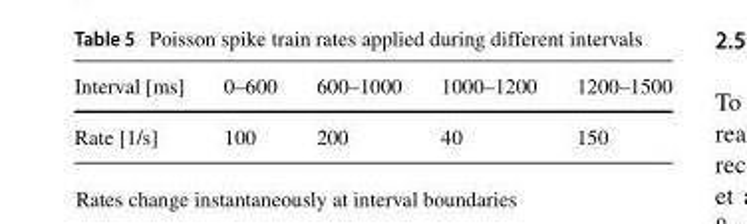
<table><thead><tr><td>Interval [ms]</td><td>0–600</td><td>600–1000</td><td>1000–1200</td><td>1200–1500</td></tr></thead><tbody><tr><td>Rate [1/s]</td><td>100</td><td>200</td><td>40</td><td>150</td></tr></tbody></table>